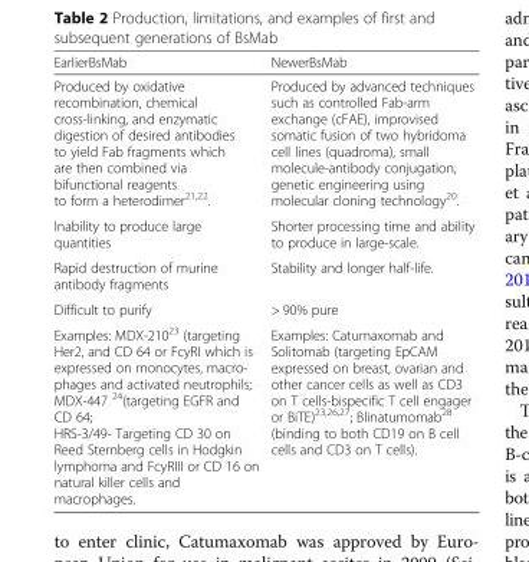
<table><thead><tr><td>EarlierBsMab</td><td>NewerBsMab</td></tr></thead><tbody><tr><td>Produced by oxidative recombination, chemical cross-linking, and enzymatic digestion of desired antibodies to yield Fab fragments which are then combined via bifunctional reagents to form a heterodimer<sup>21,22</sup>.</td><td>Produced by advanced techniques such as controlled Fab-arm exchange (cFAE), improvised somatic fusion of two hybridoma cell lines (quadroma), small molecule-antibody conjugation, genetic engineering using molecular cloning technology<sup>20</sup>.</td></tr><tr><td>Inability to produce large quantities</td><td>Shorter processing time and ability to produce in large-scale.</td></tr><tr><td>Rapid destruction of murine antibody fragments</td><td>Stability and longer half-life.</td></tr><tr><td>Difficult to purify</td><td>&gt; 90% pure</td></tr><tr><td>Examples: MDX-21023 (targeting Her2, and CD 64 or FcyRI which is expressed on monocytes, macro- phages and activated neutrophils; MDX-447 24(targeting EGFR and CD 64; HRS-3/49- Targeting CD 30 on Reed Sternberg cells in Hodgkin lymphoma and FcyRIII or CD 16 on natural killer cells and macrophages.</td><td>Examples: Catumaxomab and Solitomab (targeting EpCAM expressed on breast, ovarian and other cancer cells as well as CD3 on T cells-bispecific T cell engager or BiTE)<sup>23,26,27</sup>; Blinatumomab<sup>28</sup> (binding to both CD19 on B cell cells and CD3 on T cells).</td></tr></tbody></table>